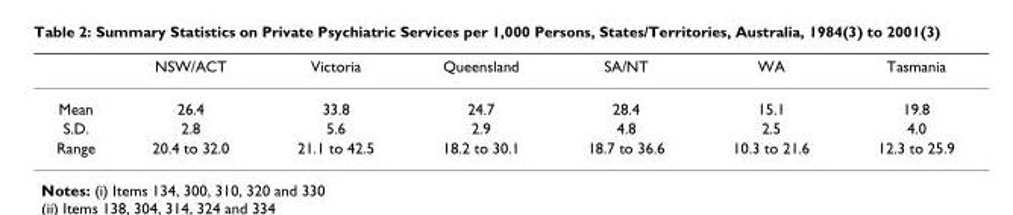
<table><thead><tr><td></td><td>NSW/ACT</td><td>Victoria</td><td>Queensland</td><td>SA/NT</td><td>WA</td><td>Tasmania</td></tr></thead><tbody><tr><td>Mean</td><td>26.4</td><td>33.8</td><td>24.7</td><td>28.4</td><td>15.1</td><td>19.8</td></tr><tr><td>S.D.</td><td>2.8</td><td>5.6</td><td>2.9</td><td>4.8</td><td>2.5</td><td>4.0</td></tr><tr><td>Range</td><td>20.4 to 32.0</td><td>21.1 to 42.5</td><td>18.2 to 30.1</td><td>18.7 to 36.6</td><td>10.3 to 21.6</td><td>12.3 to 25.9</td></tr></tbody></table>